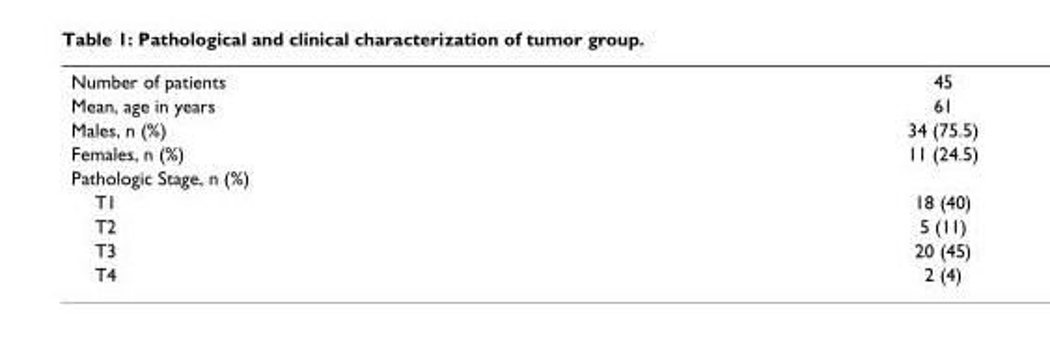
<table><tbody><tr><td>Number of patients</td><td>45</td></tr><tr><td>Mean, age in years</td><td>61</td></tr><tr><td>Males, n (%)</td><td>34 (75.5)</td></tr><tr><td>Females, n (%)</td><td>11 (24.5)</td></tr><tr><td colspan="2">Pathologic Stage, n (%)</td></tr><tr><td>T1</td><td>18 (40)</td></tr><tr><td>T2</td><td>5 (11)</td></tr><tr><td>T3</td><td>20 (45)</td></tr><tr><td>T4</td><td>2 (4)</td></tr></tbody></table>